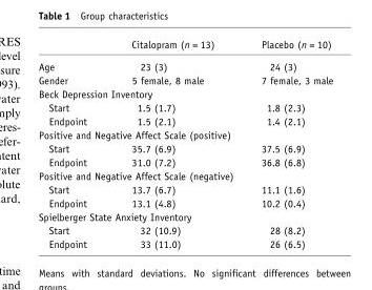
<table><thead><tr><td></td><td>Citalopram (n = 13)</td><td>Placebo (n = 10)</td></tr></thead><tbody><tr><td>Age</td><td>23 (3)</td><td>24 (3)</td></tr><tr><td>Gender</td><td>5 female, 8 male</td><td>7 female, 3 male</td></tr><tr><td colspan="3">Beck Depression Inventory</td></tr><tr><td>Start</td><td>1.5 (1.7)</td><td>1.8 (2.3)</td></tr><tr><td>Endpoint</td><td>1.5 (2.1)</td><td>1.4 (2.1)</td></tr><tr><td colspan="3">Positive and Negative Affect Scale (positive)</td></tr><tr><td>Start</td><td>35.7 (6.9)</td><td>37.5 (6.9)</td></tr><tr><td>Endpoint</td><td>31.0 (7.2)</td><td>36.8 (6.8)</td></tr><tr><td colspan="3">Positive and Negative Affect Scale (negative)</td></tr><tr><td>Start</td><td>13.7 (6.7)</td><td>11.1 (1.6)</td></tr><tr><td>Endpoint</td><td>13.1 (4.8)</td><td>10.2 (0.4)</td></tr><tr><td colspan="3">Spielberger State Anxiety Inventory</td></tr><tr><td>Start</td><td>32 (10.9)</td><td>28 (8.2)</td></tr><tr><td>Endpoint</td><td>33 (11.0)</td><td>26 (6.5)</td></tr></tbody></table>